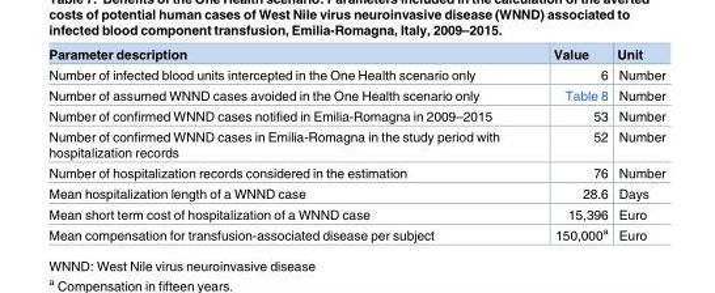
<table><thead><tr><td>Parameter description</td><td>Value</td><td>Unit</td></tr></thead><tbody><tr><td>Number of infected blood units intercepted in the One Health scenario only</td><td>6</td><td>Number</td></tr><tr><td>Number of assumed WNND cases avoided in the One Health scenario only</td><td>Table 8</td><td>Number</td></tr><tr><td>Number of confirmed WNND cases notified in Emilia-Romagna in 2009–2015</td><td>53</td><td>Number</td></tr><tr><td>Number of confirmed WNND cases in Emilia-Romagna in the study period with hospitalization records</td><td>52</td><td>Number</td></tr><tr><td>Number of hospitalization records considered in the estimation</td><td>76</td><td>Number</td></tr><tr><td>Mean hospitalization length of a WNND case</td><td>28.6</td><td>Days</td></tr><tr><td>Mean short term cost of hospitalization of a WNND case</td><td>15,396</td><td>Euro</td></tr><tr><td>Mean compensation for transfusion-associated disease per subject</td><td>150,000<sup>a</sup></td><td>Euro</td></tr></tbody></table>